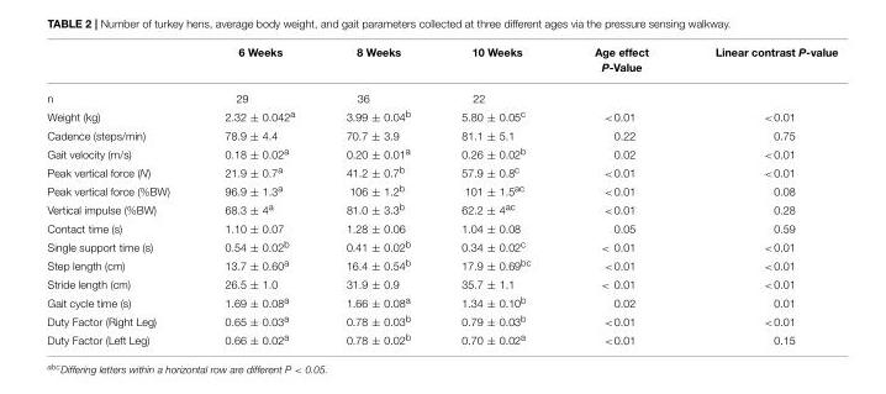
<table><thead><tr><td></td><td>6 Weeks</td><td>8 Weeks</td><td>10 Weeks</td><td>Age effect P-Value</td><td>Linear contrast P-value</td></tr></thead><tbody><tr><td>n</td><td>29</td><td>36</td><td>22</td><td></td><td></td></tr><tr><td>Weight (kg)</td><td>2.32 ± 0.042<sup>a</sup></td><td>3.99 ± 0.04<sup>b</sup></td><td>5.80 ± 0.05<sup>c</sup></td><td>&lt;0.01</td><td>&lt;0.01</td></tr><tr><td>Cadence (steps/min)</td><td>78.9 ± 4.4</td><td>70.7 ± 3.9</td><td>81.1 ± 5.1</td><td>0.22</td><td>0.75</td></tr><tr><td>Gait velocity (m/s)</td><td>0.18 ± 0.02<sup>a</sup></td><td>0.20 ± 0.01<sup>a</sup></td><td>0.26 ± 0.02<sup>b</sup></td><td>0.02</td><td>&lt;0.01</td></tr><tr><td>Peak vertical force (N)</td><td>21.9 ± 0.7<sup>a</sup></td><td>41.2 ± 0.7<sup>b</sup></td><td>57.9 ± 0.8<sup>c</sup></td><td>&lt;0.01</td><td>&lt;0.01</td></tr><tr><td>Peak vertical force (%BW)</td><td>96.9 ± 1.3<sup>a</sup></td><td>106 ± 1.2<sup>b</sup></td><td>101 ± 1.5<sup>ac</sup></td><td>&lt;0.01</td><td>0.08</td></tr><tr><td>Vertical impulse (%BW)</td><td>68.3 ± 4<sup>a</sup></td><td>81.0 ± 3.3<sup>b</sup></td><td>62.2 ± 4<sup>ac</sup></td><td>&lt;0.01</td><td>0.28</td></tr><tr><td>Contact time (s)</td><td>1.10 ± 0.07</td><td>1.28 ± 0.06</td><td>1.04 ± 0.08</td><td>0.05</td><td>0.59</td></tr><tr><td>Single support time (s)</td><td>0.54 ± 0.02<sup>b</sup></td><td>0.41 ± 0.02<sup>b</sup></td><td>0.34 ± 0.02<sup>c</sup></td><td>&lt; 0.01</td><td>&lt;0.01</td></tr><tr><td>Step length (cm)</td><td>13.7 ± 0.60<sup>a</sup></td><td>16.4 ± 0.54<sup>b</sup></td><td>17.9 ± 0.69<sup>bc</sup></td><td>&lt;0.01</td><td>&lt;0.01</td></tr><tr><td>Stride length (cm)</td><td>26.5 ± 1.0</td><td>31.9 ± 0.9</td><td>35.7 ± 1.1</td><td>&lt; 0.01</td><td>&lt;0.01</td></tr><tr><td>Gait cycle time (s)</td><td>1.69 ± 0.08<sup>a</sup></td><td>1.66 ± 0.08<sup>a</sup></td><td>1.34 ± 0.10<sup>b</sup></td><td>0.02</td><td>0.01</td></tr><tr><td>Duty Factor (Right Leg)</td><td>0.65 ± 0.03<sup>a</sup></td><td>0.78 ± 0.03<sup>b</sup></td><td>0.79 ± 0.03<sup>b</sup></td><td>&lt;0.01</td><td>&lt;0.01</td></tr><tr><td>Duty Factor (Left Leg)</td><td>0.66 ± 0.02<sup>a</sup></td><td>0.78 ± 0.02<sup>b</sup></td><td>0.70 ± 0.02<sup>a</sup></td><td>&lt;0.01</td><td>0.15</td></tr></tbody></table>